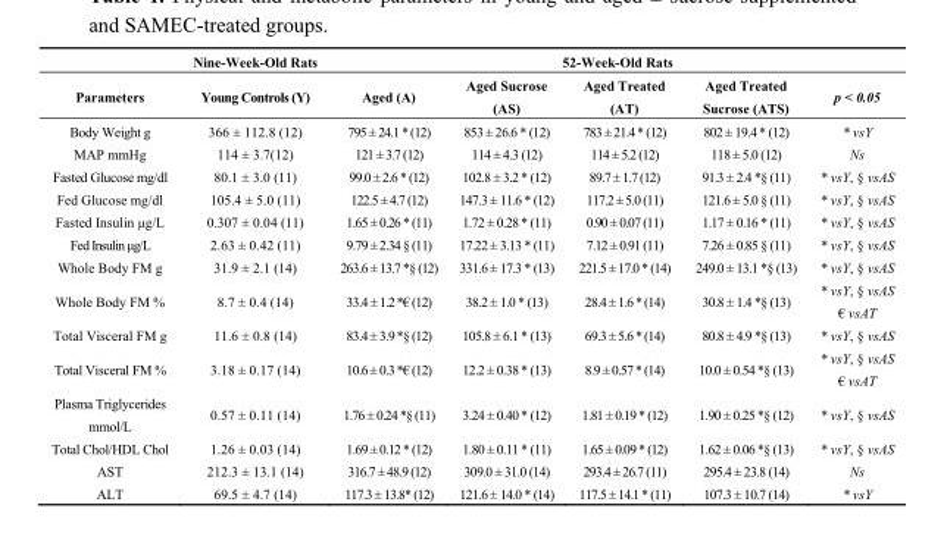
<table><thead><tr><td rowspan="2">Parameters</td><td rowspan="2">Nine-Week-Old Rats Young Controls (Y)</td><td colspan="5">52-Week-Old Rats</td></tr><tr><td>Aged (A)</td><td>Aged Sucrose (AS)</td><td>Aged Treated (AT)</td><td>Aged Treated Sucrose (ATS)</td><td>p &lt; 0.05</td></tr></thead><tbody><tr><td>Body Weight g</td><td>366 ± 112.8 (12)</td><td>795 ± 24.1 * (12)</td><td>853 ± 26.6 * (12)</td><td>783 ± 21.4 * (12)</td><td>802 ± 19.4 * (12)</td><td>* vsY</td></tr><tr><td>MAP mmHg</td><td>114 ± 3.7(12)</td><td>121 ± 3.7 (12)</td><td>114 ± 4.3 (12)</td><td>114 ± 5.2 (12)</td><td>118 ± 5.0 (12)</td><td>Ns</td></tr><tr><td>Fasted Glucose mg/dl</td><td>80.1 ± 3.0 (11)</td><td>99.0 ± 2.6 * (12)</td><td>102.8 ± 3.2 * (12)</td><td>89.7 ± 1.7 (12)</td><td>91.3 ± 2.4 *§ (11)</td><td>* vsY, § vsAS</td></tr><tr><td>Fed Glucose mg/dl</td><td>105.4 ± 5.0 (11)</td><td>122.5 ± 4.7 (12)</td><td>147.3 ± 11.6 * (12)</td><td>117.2 ± 5.0 (11)</td><td>121.6 ± 5.0 § (11)</td><td>* vsY, § vsAS</td></tr><tr><td>Fasted Insulin μg/L</td><td>0.307 ± 0.04 (11)</td><td>1.65 ± 0.26 * (11)</td><td>1.72 ± 0.28 * (11)</td><td>0.90 ± 0.07 (11)</td><td>1.17 ± 0.16 * (11)</td><td>* vsY, § vsAS</td></tr><tr><td>Fed Insulin μg/L</td><td>2.63 ± 0.42 (11)</td><td>9.79 ± 2.34 § (11)</td><td>17.22 ± 3.13 * (11)</td><td>7.12 ± 0.91 (11)</td><td>7.26 ± 0.85 § (11)</td><td>* vsY, § vsAS</td></tr><tr><td>Whole Body FM g</td><td>31.9 ± 2.1 (14)</td><td>263.6 ± 13.7 *§ (12)</td><td>331.6 ± 17.3 * (13)</td><td>221.5 ± 17.0 * (14)</td><td>249.0 ± 13.1 *§ (13)</td><td>* vsY, § vsAS</td></tr><tr><td>Whole Body FM %</td><td>8.7 ± 0.4 (14)</td><td>33.4 ± 1.2 *€ (12)</td><td>38.2 ± 1.0 * (13)</td><td>28.4 ± 1.6 * (14)</td><td>30.8 ± 1.4 *§ (13)</td><td>* vsY, § vsAS € vsAT</td></tr><tr><td>Total Visceral FM g</td><td>11.6 ± 0.8 (14)</td><td>83.4 ± 3.9 *§ (12)</td><td>105.8 ± 6.1 * (13)</td><td>69.3 ± 5.6 * (14)</td><td>80.8 ± 4.9 *§ (13)</td><td>* vsY, § vsAS</td></tr><tr><td>Total Visceral FM %</td><td>3.18 ± 0.17 (14)</td><td>10.6 ± 0.3 *€ (12)</td><td>12.2 ± 0.38 * (13)</td><td>8.9 ± 0.57 * (14)</td><td>10.0 ± 0.54 *§ (13)</td><td>* vsY, § vsAS € vsAT</td></tr><tr><td>Plasma Triglycerides mmol/L</td><td>0.57 ± 0.11 (14)</td><td>1.76 ± 0.24 *§ (11)</td><td>3.24 ± 0.40 * (12)</td><td>1.81 ± 0.19 * (12)</td><td>1.90 ± 0.25 *§ (12)</td><td>* vsY, § vsAS</td></tr><tr><td>Total Chol/HDL Chol</td><td>1.26 ± 0.03 (14)</td><td>1.69 ± 0.12 * (12)</td><td>1.80 ± 0.11 * (11)</td><td>1.65 ± 0.09 * (12)</td><td>1.62 ± 0.06 *§ (13)</td><td>* vsY, § vsAS</td></tr><tr><td>AST</td><td>212.3 ± 13.1 (14)</td><td>316.7 ± 48.9 (12)</td><td>309.0 ± 31.0 (14)</td><td>293.4 ± 26.7 (11)</td><td>295.4 ± 23.8 (14)</td><td>Ns</td></tr><tr><td>ALT</td><td>69.5 ± 4.7 (14)</td><td>117.3 ± 13.8* (12)</td><td>121.6 ± 14.0 * (14)</td><td>117.5 ± 14.1 * (11)</td><td>107.3 ± 10.7 (14)</td><td>* vsY</td></tr></tbody></table>